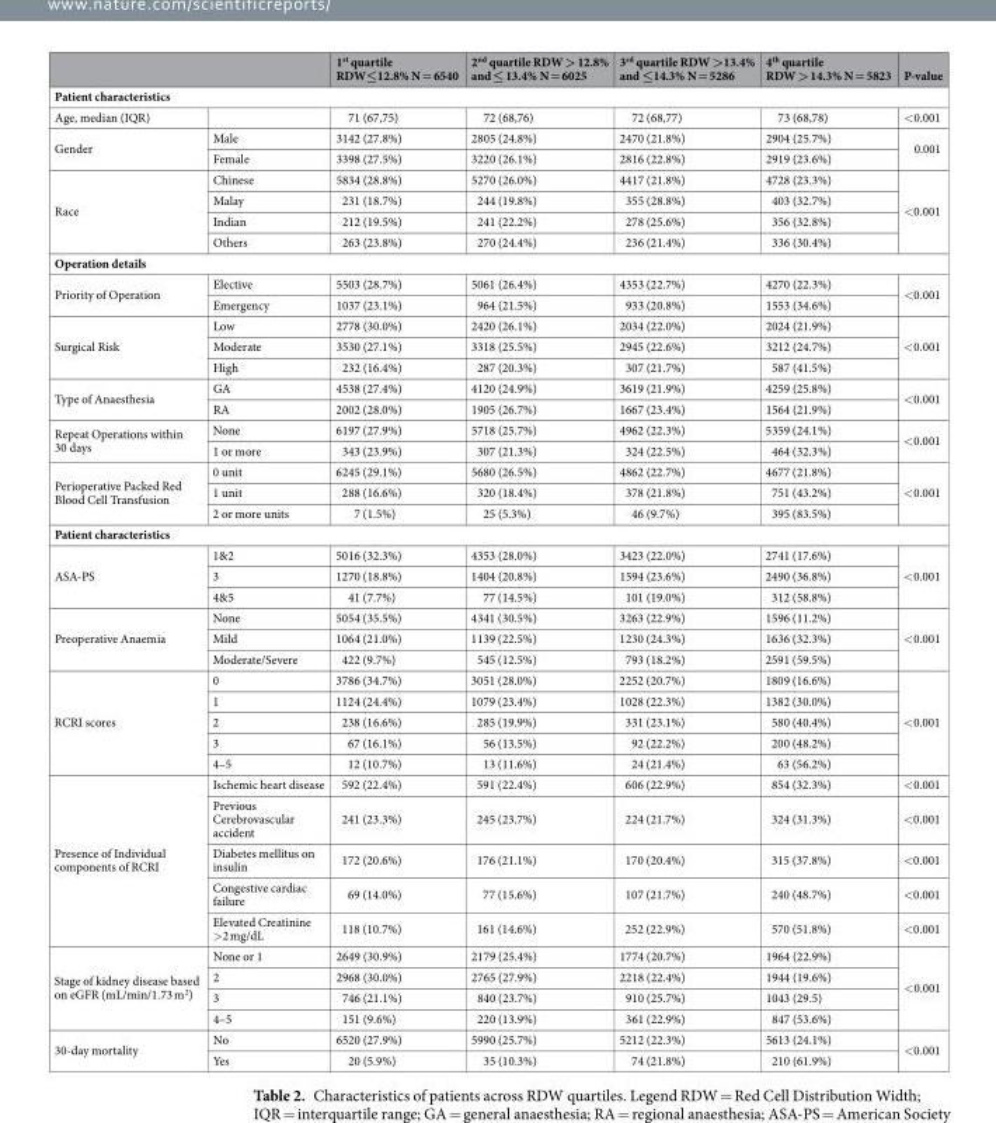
<table><thead><tr><td></td><td></td><td>1<sup>st</sup> quartile RDW≤12.8% N = 6540</td><td>2<sup>nd</sup> quartile RDW &gt; 12.8% and ≤ 13.4% N = 6025</td><td>3<sup>rd</sup> quartile RDW &gt;13.4% and ≤14.3% N = 5286</td><td>4<sup>th</sup> quartile RDW &gt; 14.3% N = 5823</td><td>P-value</td></tr></thead><tbody><tr><td colspan="7">Patient characteristics</td></tr><tr><td>Age, median (IQR)</td><td></td><td>71 (67,75)</td><td>72 (68,76)</td><td>72 (68,77)</td><td>73 (68,78)</td><td>&lt;0.001</td></tr><tr><td rowspan="2">Gender</td><td>Male</td><td>3142 (27.8%)</td><td>2805 (24.8%)</td><td>2470 (21.8%)</td><td>2904 (25.7%)</td><td rowspan="2">0.001</td></tr><tr><td>Female</td><td>3398 (27.5%)</td><td>3220 (26.1%)</td><td>2816 (22.8%)</td><td>2919 (23.6%)</td></tr><tr><td rowspan="4">Race</td><td>Chinese</td><td>5834 (28.8%)</td><td>5270 (26.0%)</td><td>4417 (21.8%)</td><td>4728 (23.3%)</td><td rowspan="4">&lt;0.001</td></tr><tr><td>Malay</td><td>231 (18.7%)</td><td>244 (19.8%)</td><td>355 (28.8%)</td><td>403 (32.7%)</td></tr><tr><td>Indian</td><td>212 (19.5%)</td><td>241 (22.2%)</td><td>278 (25.6%)</td><td>356 (32.8%)</td></tr><tr><td>Others</td><td>263 (23.8%)</td><td>270 (24.4%)</td><td>236 (21.4%)</td><td>336 (30.4%)</td></tr><tr><td colspan="7">Operation details</td></tr><tr><td rowspan="2">Priority of Operation</td><td>Elective</td><td>5503 (28.7%)</td><td>5061 (26.4%)</td><td>4353 (22.7%)</td><td>4270 (22.3%)</td><td rowspan="2">&lt;0.001</td></tr><tr><td>Emergency</td><td>1037 (23.1%)</td><td>964 (21.5%)</td><td>933 (20.8%)</td><td>1553 (34.6%)</td></tr><tr><td rowspan="3">Surgical Risk</td><td>Low</td><td>2778 (30.0%)</td><td>2420 (26.1%)</td><td>2034 (22.0%)</td><td>2024 (21.9%)</td><td rowspan="3">&lt;0.001</td></tr><tr><td>Moderate</td><td>3530 (27.1%)</td><td>3318 (25.5%)</td><td>2945 (22.6%)</td><td>3212 (24.7%)</td></tr><tr><td>High</td><td>232 (16.4%)</td><td>287 (20.3%)</td><td>307 (21.7%)</td><td>587 (41.5%)</td></tr><tr><td rowspan="2">Type of Anaesthesia</td><td>GA</td><td>4538 (27.4%)</td><td>4120 (24.9%)</td><td>3619 (21.9%)</td><td>4259 (25.8%)</td><td rowspan="2">&lt;0.001</td></tr><tr><td>RA</td><td>2002 (28.0%)</td><td>1905 (26.7%)</td><td>1667 (23.4%)</td><td>1564 (21.9%)</td></tr><tr><td rowspan="2">Repeat Operations within 30 days</td><td>None</td><td>6197 (27.9%)</td><td>5718 (25.7%)</td><td>4962 (22.3%)</td><td>5359 (24.1%)</td><td rowspan="2">&lt;0.001</td></tr><tr><td>1 or more</td><td>343 (23.9%)</td><td>307 (21.3%)</td><td>324 (22.5%)</td><td>464 (32.3%)</td></tr><tr><td rowspan="3">Perioperative Packed Red Blood Cell Transfusion</td><td>0 unit</td><td>6245 (29.1%)</td><td>5680 (26.5%)</td><td>4862 (22.7%)</td><td>4677 (21.8%)</td><td rowspan="3">&lt;0.001</td></tr><tr><td>1 unit</td><td>288 (16.6%)</td><td>320 (18.4%)</td><td>378 (21.8%)</td><td>751 (43.2%)</td></tr><tr><td>2 or more units</td><td>7 (1.5%)</td><td>25 (5.3%)</td><td>46 (9.7%)</td><td>395 (83.5%)</td></tr><tr><td colspan="7">Patient characteristics</td></tr><tr><td rowspan="3">ASA-PS</td><td>1&amp;2</td><td>5016 (32.3%)</td><td>4353 (28.0%)</td><td>3423 (22.0%)</td><td>2741 (17.6%)</td><td rowspan="3">&lt;0.001</td></tr><tr><td>3</td><td>1270 (18.8%)</td><td>1404 (20.8%)</td><td>1594 (23.6%)</td><td>2490 (36.8%)</td></tr><tr><td>4&amp;5</td><td>41 (7.7%)</td><td>77 (14.5%)</td><td>101 (19.0%)</td><td>312 (58.8%)</td></tr><tr><td rowspan="3">Preoperative Anaemia</td><td>None</td><td>5054 (35.5%)</td><td>4341 (30.5%)</td><td>3263 (22.9%)</td><td>1596 (11.2%)</td><td rowspan="3">&lt;0.001</td></tr><tr><td>Mild</td><td>1064 (21.0%)</td><td>1139 (22.5%)</td><td>1230 (24.3%)</td><td>1636 (32.3%)</td></tr><tr><td>Moderate/Severe</td><td>422 (9.7%)</td><td>545 (12.5%)</td><td>793 (18.2%)</td><td>2591 (59.5%)</td></tr><tr><td rowspan="5">RCRI scores</td><td>0</td><td>3786 (34.7%)</td><td>3051 (28.0%)</td><td>2252 (20.7%)</td><td>1809 (16.6%)</td><td rowspan="5">&lt;0.001</td></tr><tr><td>1</td><td>1124 (24.4%)</td><td>1079 (23.4%)</td><td>1028 (22.3%)</td><td>1382 (30.0%)</td></tr><tr><td>2</td><td>238 (16.6%)</td><td>285 (19.9%)</td><td>331 (23.1%)</td><td>580 (40.4%)</td></tr><tr><td>3</td><td>67 (16.1%)</td><td>56 (13.5%)</td><td>92 (22.2%)</td><td>200 (48.2%)</td></tr><tr><td>4–5</td><td>12 (10.7%)</td><td>13 (11.6%)</td><td>24 (21.4%)</td><td>63 (56.2%)</td></tr><tr><td rowspan="5">Presence of Individual components of RCRI</td><td>Ischemic heart disease</td><td>592 (22.4%)</td><td>591 (22.4%)</td><td>606 (22.9%)</td><td>854 (32.3%)</td><td>&lt;0.001</td></tr><tr><td>Previous Cerebrovascular accident</td><td>241 (23.3%)</td><td>245 (23.7%)</td><td>224 (21.7%)</td><td>324 (31.3%)</td><td>&lt;0.001</td></tr><tr><td>Diabetes mellitus on insulin</td><td>172 (20.6%)</td><td>176 (21.1%)</td><td>170 (20.4%)</td><td>315 (37.8%)</td><td>&lt;0.001</td></tr><tr><td>Congestive cardiac failure</td><td>69 (14.0%)</td><td>77 (15.6%)</td><td>107 (21.7%)</td><td>240 (48.7%)</td><td>&lt;0.001</td></tr><tr><td>Elevated Creatinine &gt;2 mg/dL</td><td>118 (10.7%)</td><td>161 (14.6%)</td><td>252 (22.9%)</td><td>570 (51.8%)</td><td>&lt;0.001</td></tr><tr><td rowspan="4">Stage of kidney disease based on eGFR (mL/min/1.73 m<sup>2</sup>)</td><td>None or 1</td><td>2649 (30.9%)</td><td>2179 (25.4%)</td><td>1774 (20.7%)</td><td>1964 (22.9%)</td><td rowspan="4">&lt;0.001</td></tr><tr><td>2</td><td>2968 (30.0%)</td><td>2765 (27.9%)</td><td>2218 (22.4%)</td><td>1944 (19.6%)</td></tr><tr><td>3</td><td>746 (21.1%)</td><td>840 (23.7%)</td><td>910 (25.7%)</td><td>1043 (29.5)</td></tr><tr><td>4–5</td><td>151 (9.6%)</td><td>220 (13.9%)</td><td>361 (22.9%)</td><td>847 (53.6%)</td></tr><tr><td rowspan="2">30-day mortality</td><td>No</td><td>6520 (27.9%)</td><td>5990 (25.7%)</td><td>5212 (22.3%)</td><td>5613 (24.1%)</td><td rowspan="2">&lt;0.001</td></tr><tr><td>Yes</td><td>20 (5.9%)</td><td>35 (10.3%)</td><td>74 (21.8%)</td><td>210 (61.9%)</td></tr></tbody></table>